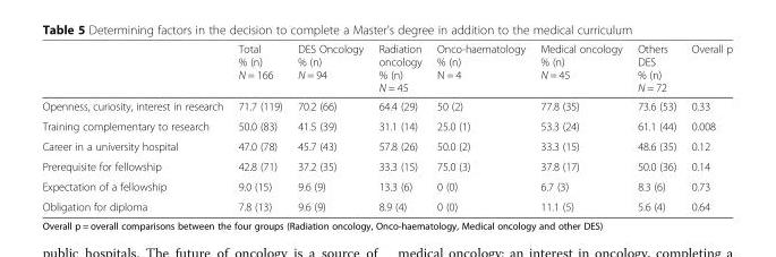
<table><thead><tr><td></td><td>Total % (n) N = 166</td><td>DES Oncology % (n) N = 94</td><td>Radiation oncology % (n) N = 45</td><td>Onco-haematology % (n) N = 4</td><td>Medical oncology % (n) N = 45</td><td>Others DES % (n) N = 72</td><td>Overall p</td></tr></thead><tbody><tr><td>Openness, curiosity, interest in research</td><td>71.7 (119)</td><td>70.2 (66)</td><td>64.4 (29)</td><td>50 (2)</td><td>77.8 (35)</td><td>73.6 (53)</td><td>0.33</td></tr><tr><td>Training complementary to research</td><td>50.0 (83)</td><td>41.5 (39)</td><td>31.1 (14)</td><td>25.0 (1)</td><td>53.3 (24)</td><td>61.1 (44)</td><td>0.008</td></tr><tr><td>Career in a university hospital</td><td>47.0 (78)</td><td>45.7 (43)</td><td>57.8 (26)</td><td>50.0 (2)</td><td>33.3 (15)</td><td>48.6 (35)</td><td>0.12</td></tr><tr><td>Prerequisite for fellowship</td><td>42.8 (71)</td><td>37.2 (35)</td><td>33.3 (15)</td><td>75.0 (3)</td><td>37.8 (17)</td><td>50.0 (36)</td><td>0.14</td></tr><tr><td>Expectation of a fellowship</td><td>9.0 (15)</td><td>9.6 (9)</td><td>13.3 (6)</td><td>0 (0)</td><td>6.7 (3)</td><td>8.3 (6)</td><td>0.73</td></tr><tr><td>Obligation for diploma</td><td>7.8 (13)</td><td>9.6 (9)</td><td>8.9 (4)</td><td>0 (0)</td><td>11.1 (5)</td><td>5.6 (4)</td><td>0.64</td></tr></tbody></table>